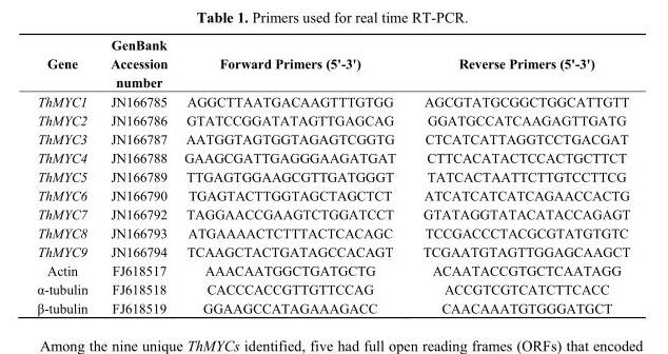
<table><thead><tr><td>Gene</td><td>GenBank Accession number</td><td>Forward Primers (5&#x27;-3&#x27;)</td><td>Reverse Primers (5&#x27;-3&#x27;)</td></tr></thead><tbody><tr><td>ThMYC1</td><td>JN166785</td><td>AGGCTTAATGACAAGTTTGTGG</td><td>AGCGTATGCGGCTGGCATTGTT</td></tr><tr><td>ThMYC2</td><td>JN166786</td><td>GTATCCGGATATAGTTGAGCAG</td><td>GGATGCCATCAAGAGTTGATG</td></tr><tr><td>ThMYC3</td><td>JN166787</td><td>AATGGTAGTGGTAGAGTCGGTG</td><td>CTCATCATTAGGTCCTGACGAT</td></tr><tr><td>ThMYC4</td><td>JN166788</td><td>GAAGCGATTGAGGGAAGATGAT</td><td>CTTCACATACTCCACTGCTTCT</td></tr><tr><td>ThMYC5</td><td>JN166789</td><td>TTGAGTGGAAGCGTTGATGGGT</td><td>TATCACTAATTCTTGTCCTTCG</td></tr><tr><td>ThMYC6</td><td>JN166790</td><td>TGAGTACTTGGTAGCTAGCTCT</td><td>ATCATCATCATCAGAACCACTG</td></tr><tr><td>ThMYC7</td><td>JN166792</td><td>TAGGAACCGAAGTCTGGATCCT</td><td>GTATAGGTATACATACCAGAGT</td></tr><tr><td>ThMYC8</td><td>JN166793</td><td>ATGAAAACTCTTTACTCACAGC</td><td>TCCGACCCTACGCGTATGTGTC</td></tr><tr><td>ThMYC9</td><td>JN166794</td><td>TCAAGCTACTGATAGCCACAGT</td><td>TCGAATGTAGTTGGAGCAAGCT</td></tr><tr><td>Actin</td><td>FJ618517</td><td>AAACAATGGCTGATGCTG</td><td>ACAATACCGTGCTCAATAGG</td></tr><tr><td>α-tubulin</td><td>FJ618518</td><td>CACCCACCGTTGTTCCAG</td><td>ACCGTCGTCATCTTCACC</td></tr><tr><td>β-tubulin</td><td>FJ618519</td><td>GGAAGCCATAGAAAGACC</td><td>CAACAAATGTGGGATGCT</td></tr></tbody></table>